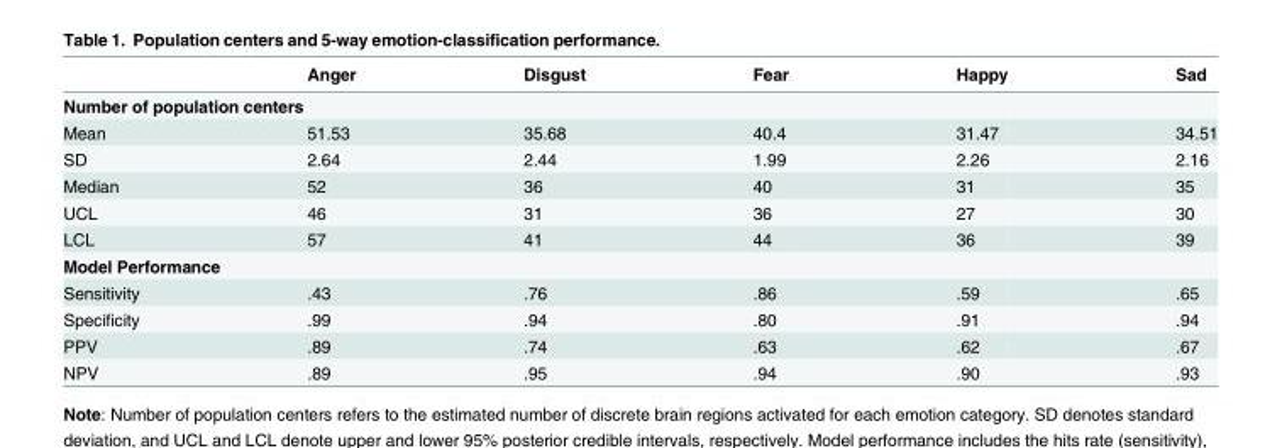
<table><thead><tr><td></td><td>Anger</td><td>Disgust</td><td>Fear</td><td>Happy</td><td>Sad</td></tr></thead><tbody><tr><td colspan="6">Number of population centers</td></tr><tr><td>Mean</td><td>51.53</td><td>35.68</td><td>40.4</td><td>31.47</td><td>34.51</td></tr><tr><td>SD</td><td>2.64</td><td>2.44</td><td>1.99</td><td>2.26</td><td>2.16</td></tr><tr><td>Median</td><td>52</td><td>36</td><td>40</td><td>31</td><td>35</td></tr><tr><td>UCL</td><td>46</td><td>31</td><td>36</td><td>27</td><td>30</td></tr><tr><td>LCL</td><td>57</td><td>41</td><td>44</td><td>36</td><td>39</td></tr><tr><td colspan="6">Model Performance</td></tr><tr><td>Sensitivity</td><td>.43</td><td>.76</td><td>.86</td><td>.59</td><td>.65</td></tr><tr><td>Specificity</td><td>.99</td><td>.94</td><td>.80</td><td>.91</td><td>.94</td></tr><tr><td>PPV</td><td>.89</td><td>.74</td><td>.63</td><td>.62</td><td>.67</td></tr><tr><td>NPV</td><td>.89</td><td>.95</td><td>.94</td><td>.90</td><td>.93</td></tr></tbody></table>